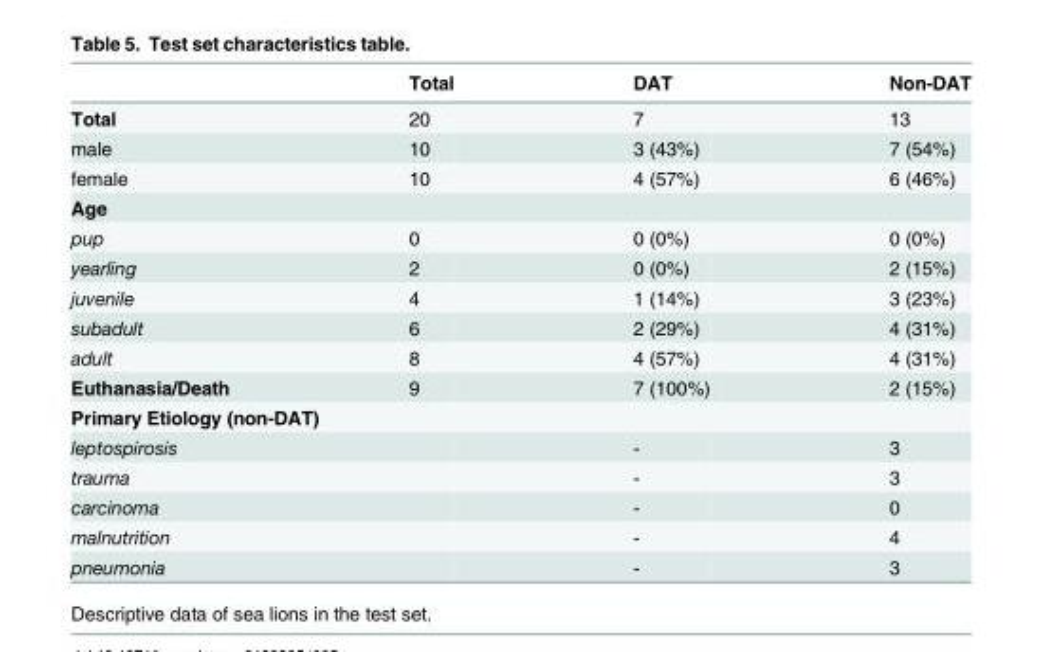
<table><thead><tr><td></td><td>Total</td><td>DAT</td><td>Non-DAT</td></tr></thead><tbody><tr><td>Total</td><td>20</td><td>7</td><td>13</td></tr><tr><td>male</td><td>10</td><td>3 (43%)</td><td>7 (54%)</td></tr><tr><td>female</td><td>10</td><td>4 (57%)</td><td>6 (46%)</td></tr><tr><td colspan="4">Age</td></tr><tr><td>pup</td><td>0</td><td>0 (0%)</td><td>0 (0%)</td></tr><tr><td>yearling</td><td>2</td><td>0 (0%)</td><td>2 (15%)</td></tr><tr><td>juvenile</td><td>4</td><td>1 (14%)</td><td>3 (23%)</td></tr><tr><td>subadult</td><td>6</td><td>2 (29%)</td><td>4 (31%)</td></tr><tr><td>adult</td><td>8</td><td>4 (57%)</td><td>4 (31%)</td></tr><tr><td>Euthanasia/Death</td><td>9</td><td>7 (100%)</td><td>2 (15%)</td></tr><tr><td colspan="4">Primary Etiology (non-DAT)</td></tr><tr><td>leptospirosis</td><td></td><td>-</td><td>3</td></tr><tr><td>trauma</td><td></td><td>-</td><td>3</td></tr><tr><td>carcinoma</td><td></td><td>-</td><td>0</td></tr><tr><td>malnutrition</td><td></td><td>-</td><td>4</td></tr><tr><td>pneumonia</td><td></td><td>-</td><td>3</td></tr></tbody></table>